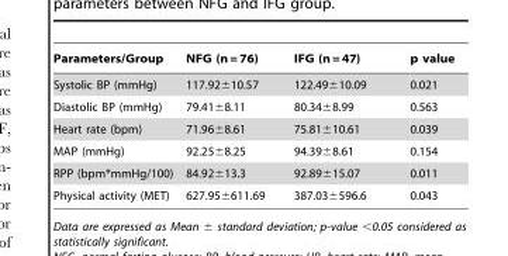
<table><thead><tr><td>Parameters/Group</td><td>NFG (n = 76)</td><td>IFG (n = 47)</td><td>p value</td></tr></thead><tbody><tr><td>Systolic BP (mmHg)</td><td>117.92±10.57</td><td>122.49±10.09</td><td>0.021</td></tr><tr><td>Diastolic BP (mmHg)</td><td>79.41±8.11</td><td>80.34±8.99</td><td>0.563</td></tr><tr><td>Heart rate (bpm)</td><td>71.96±8.61</td><td>75.81±10.61</td><td>0.039</td></tr><tr><td>MAP (mmHg)</td><td>92.25±8.25</td><td>94.39±8.61</td><td>0.154</td></tr><tr><td>RPP (bpm*mmHg/100)</td><td>84.92±13.3</td><td>92.89±15.07</td><td>0.011</td></tr><tr><td>Physical activity (MET)</td><td>627.95±611.69</td><td>387.03±596.6</td><td>0.043</td></tr></tbody></table>